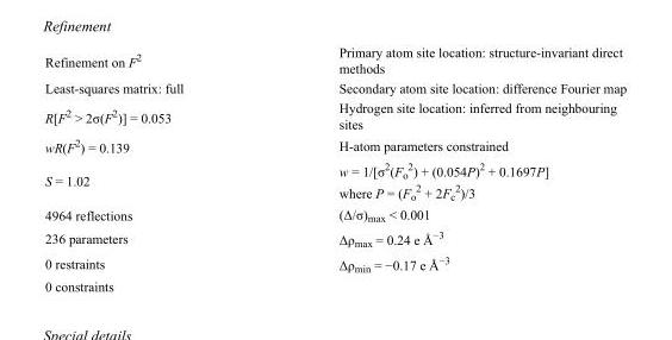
<table><tbody><tr><td>Refinement on F<sup>2</sup></td><td>Primary atom site location: structure-invariant direct methods</td></tr><tr><td>Least-squares matrix: full</td><td>Secondary atom site location: difference Fourier map</td></tr><tr><td>R[F<sup>2</sup> &gt; 2σ(F<sup>2</sup>)] = 0.053</td><td>Hydrogen site location: inferred from neighbouring sites</td></tr><tr><td>wR(F<sup>2</sup>) = 0.139</td><td>H-atom parameters constrained</td></tr><tr><td>S = 1.02</td><td>w = 1/[σ<sup>2</sup>(F<sub>o</sub> <sup>2</sup>) + (0.054P)<sup>2</sup> + 0.1697P] where P = (F<sub>o</sub> <sup>2</sup> + 2F<sub>c</sub> <sup>2</sup>)/3</td></tr><tr><td>4964 reflections</td><td>(Δ/σ)<sub>max</sub> &lt; 0.001</td></tr><tr><td>236 parameters</td><td>Δρ<sub>max</sub> = 0.24 e Å<sup>−3</sup></td></tr><tr><td>0 restraints</td><td>Δρ<sub>min</sub> = −0.17 e Å<sup>−3</sup></td></tr><tr><td>0 constraints</td><td></td></tr></tbody></table>